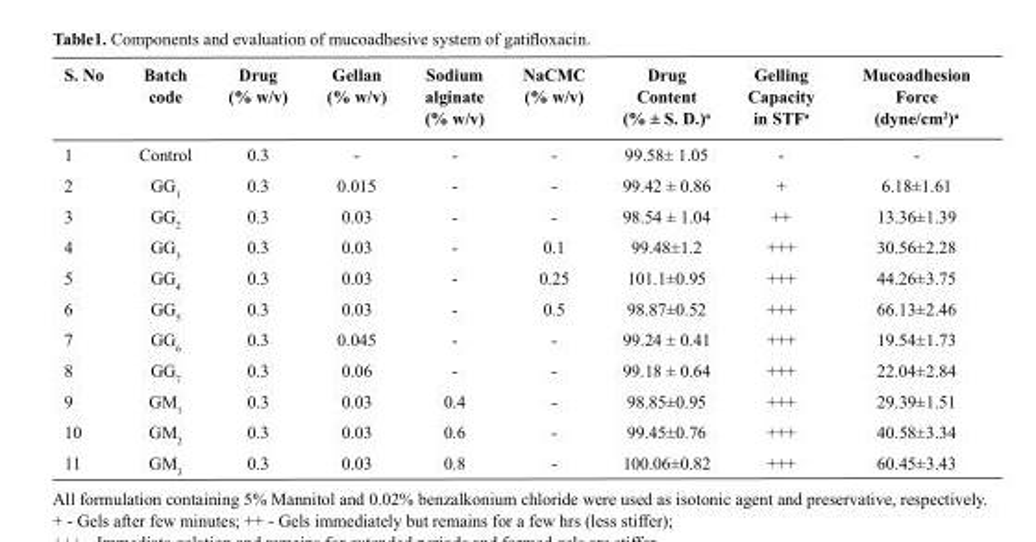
<table><thead><tr><td>S. No</td><td>Batch code</td><td>Drug (% w/v)</td><td>Gellan (% w/v)</td><td>Sodium alginate (% w/v)</td><td>NaCMC (% w/v)</td><td>Drug Content (% ± S. D.)<sup>a</sup></td><td>Gelling Capacity in STF<sup>a</sup></td><td>Mucoadhesion Force (dyne/cm<sup>2</sup>)<sup>a</sup></td></tr></thead><tbody><tr><td>1</td><td>Control</td><td>0.3</td><td>-</td><td>-</td><td>-</td><td>99.58± 1.05</td><td>-</td><td>-</td></tr><tr><td>2</td><td>GG<sub>1</sub></td><td>0.3</td><td>0.015</td><td>-</td><td>-</td><td>99.42 ± 0.86</td><td>+</td><td>6.18±1.61</td></tr><tr><td>3</td><td>GG<sub>2</sub></td><td>0.3</td><td>0.03</td><td>-</td><td>-</td><td>98.54 ± 1.04</td><td>++</td><td>13.36±1.39</td></tr><tr><td>4</td><td>GG<sub>3</sub></td><td>0.3</td><td>0.03</td><td>-</td><td>0.1</td><td>99.48±1.2</td><td>+++</td><td>30.56±2.28</td></tr><tr><td>5</td><td>GG<sub>4</sub></td><td>0.3</td><td>0.03</td><td>-</td><td>0.25</td><td>101.1±0.95</td><td>+++</td><td>44.26±3.75</td></tr><tr><td>6</td><td>GG<sub>5</sub></td><td>0.3</td><td>0.03</td><td>-</td><td>0.5</td><td>98.87±0.52</td><td>+++</td><td>66.13±2.46</td></tr><tr><td>7</td><td>GG<sub>6</sub></td><td>0.3</td><td>0.045</td><td>-</td><td>-</td><td>99.24 ± 0.41</td><td>+++</td><td>19.54±1.73</td></tr><tr><td>8</td><td>GG<sub>7</sub></td><td>0.3</td><td>0.06</td><td>-</td><td>-</td><td>99.18 ± 0.64</td><td>+++</td><td>22.04±2.84</td></tr><tr><td>9</td><td>GM<sub>1</sub></td><td>0.3</td><td>0.03</td><td>0.4</td><td>-</td><td>98.85±0.95</td><td>+++</td><td>29.39±1.51</td></tr><tr><td>10</td><td>GM<sub>2</sub></td><td>0.3</td><td>0.03</td><td>0.6</td><td>-</td><td>99.45±0.76</td><td>+++</td><td>40.58±3.34</td></tr><tr><td>11</td><td>GM<sub>3</sub></td><td>0.3</td><td>0.03</td><td>0.8</td><td>-</td><td>100.06±0.82</td><td>+++</td><td>60.45±3.43</td></tr></tbody></table>